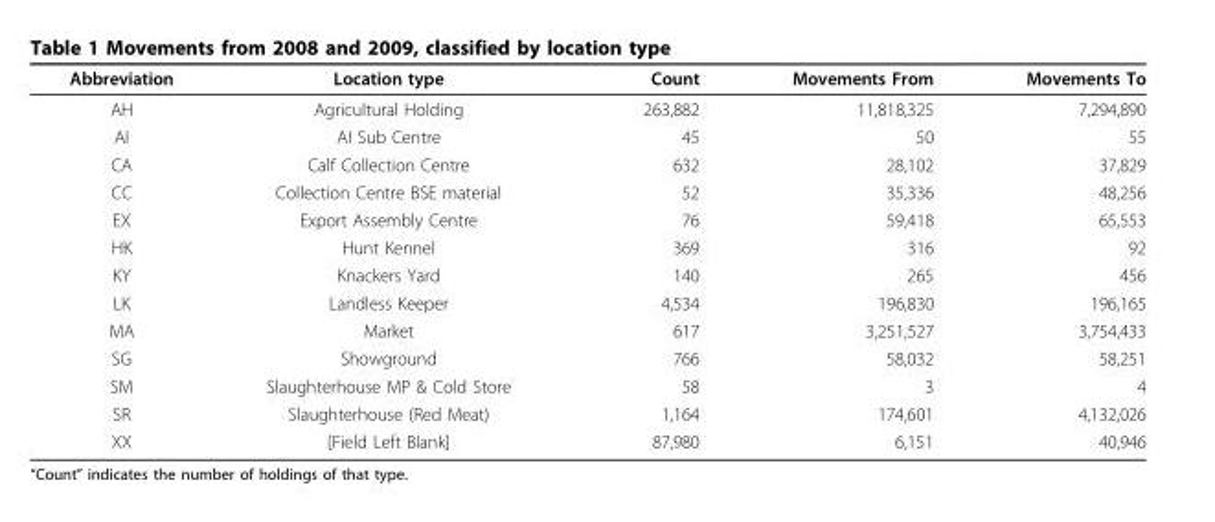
<table><thead><tr><td>Abbreviation</td><td>Location type</td><td>Count</td><td>Movements From</td><td>Movements To</td></tr></thead><tbody><tr><td>AH</td><td>Agricultural Holding</td><td>263,882</td><td>11,818,325</td><td>7,294,890</td></tr><tr><td>AI</td><td>AI Sub Centre</td><td>45</td><td>50</td><td>55</td></tr><tr><td>CA</td><td>Calf Collection Centre</td><td>632</td><td>28,102</td><td>37,829</td></tr><tr><td>CC</td><td>Collection Centre BSE material</td><td>52</td><td>35,336</td><td>48,256</td></tr><tr><td>EX</td><td>Export Assembly Centre</td><td>76</td><td>59,418</td><td>65,553</td></tr><tr><td>HK</td><td>Hunt Kennel</td><td>369</td><td>316</td><td>92</td></tr><tr><td>KY</td><td>Knackers Yard</td><td>140</td><td>265</td><td>456</td></tr><tr><td>LK</td><td>Landless Keeper</td><td>4,534</td><td>196,830</td><td>196,165</td></tr><tr><td>MA</td><td>Market</td><td>617</td><td>3,251,527</td><td>3,754,433</td></tr><tr><td>SG</td><td>Showground</td><td>766</td><td>58,032</td><td>58,251</td></tr><tr><td>SM</td><td>Slaughterhouse MP &amp; Cold Store</td><td>58</td><td>3</td><td>4</td></tr><tr><td>SR</td><td>Slaughterhouse (Red Meat)</td><td>1,164</td><td>174,601</td><td>4,132,026</td></tr><tr><td>XX</td><td>[Field Left Blank]</td><td>87,980</td><td>6,151</td><td>40,946</td></tr></tbody></table>